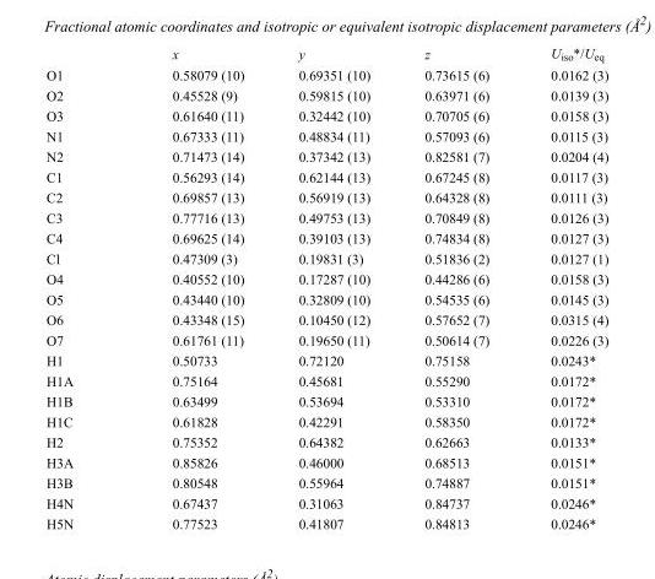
<table><thead><tr><td></td><td>x</td><td>y</td><td>z</td><td>U<sub>iso</sub>*/U<sub>eq</sub></td></tr></thead><tbody><tr><td>O1</td><td>0.58079 (10)</td><td>0.69351 (10)</td><td>0.73615 (6)</td><td>0.0162 (3)</td></tr><tr><td>O2</td><td>0.45528 (9)</td><td>0.59815 (10)</td><td>0.63971 (6)</td><td>0.0139 (3)</td></tr><tr><td>O3</td><td>0.61640 (11)</td><td>0.32442 (10)</td><td>0.70705 (6)</td><td>0.0158 (3)</td></tr><tr><td>N1</td><td>0.67333 (11)</td><td>0.48834 (11)</td><td>0.57093 (6)</td><td>0.0115 (3)</td></tr><tr><td>N2</td><td>0.71473 (14)</td><td>0.37342 (13)</td><td>0.82581 (7)</td><td>0.0204 (4)</td></tr><tr><td>C1</td><td>0.56293 (14)</td><td>0.62144 (13)</td><td>0.67245 (8)</td><td>0.0117 (3)</td></tr><tr><td>C2</td><td>0.69857 (13)</td><td>0.56919 (13)</td><td>0.64328 (8)</td><td>0.0111 (3)</td></tr><tr><td>C3</td><td>0.77716 (13)</td><td>0.49753 (13)</td><td>0.70849 (8)</td><td>0.0126 (3)</td></tr><tr><td>C4</td><td>0.69625 (14)</td><td>0.39103 (13)</td><td>0.74834 (8)</td><td>0.0127 (3)</td></tr><tr><td>Cl</td><td>0.47309 (3)</td><td>0.19831 (3)</td><td>0.51836 (2)</td><td>0.0127 (1)</td></tr><tr><td>O4</td><td>0.40552 (10)</td><td>0.17287 (10)</td><td>0.44286 (6)</td><td>0.0158 (3)</td></tr><tr><td>O5</td><td>0.43440 (10)</td><td>0.32809 (10)</td><td>0.54535 (6)</td><td>0.0145 (3)</td></tr><tr><td>O6</td><td>0.43348 (15)</td><td>0.10450 (12)</td><td>0.57652 (7)</td><td>0.0315 (4)</td></tr><tr><td>O7</td><td>0.61761 (11)</td><td>0.19650 (11)</td><td>0.50614 (7)</td><td>0.0226 (3)</td></tr><tr><td>H1</td><td>0.50733</td><td>0.72120</td><td>0.75158</td><td>0.0243*</td></tr><tr><td>H1A</td><td>0.75164</td><td>0.45681</td><td>0.55290</td><td>0.0172*</td></tr><tr><td>H1B</td><td>0.63499</td><td>0.53694</td><td>0.53310</td><td>0.0172*</td></tr><tr><td>H1C</td><td>0.61828</td><td>0.42291</td><td>0.58350</td><td>0.0172*</td></tr><tr><td>H2</td><td>0.75352</td><td>0.64382</td><td>0.62663</td><td>0.0133*</td></tr><tr><td>H3A</td><td>0.85826</td><td>0.46000</td><td>0.68513</td><td>0.0151*</td></tr><tr><td>H3B</td><td>0.80548</td><td>0.55964</td><td>0.74887</td><td>0.0151*</td></tr><tr><td>H4N</td><td>0.67437</td><td>0.31063</td><td>0.84737</td><td>0.0246*</td></tr><tr><td>H5N</td><td>0.77523</td><td>0.41807</td><td>0.84813</td><td>0.0246*</td></tr></tbody></table>